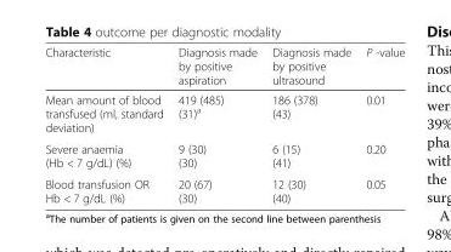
<table><thead><tr><td>Characteristic</td><td>Diagnosis made by positive aspiration</td><td>Diagnosis made by positive ultrasound</td><td>P -value</td></tr></thead><tbody><tr><td>Mean amount of blood transfused (ml, standard deviation)</td><td>419 (485) (31)<sup>a</sup></td><td>186 (378) (43)</td><td>0.01</td></tr><tr><td>Severe anaemia (Hb &lt; 7 g/dL) (%)</td><td>9 (30) (30)</td><td>6 (15) (41)</td><td>0.20</td></tr><tr><td>Blood transfusion OR Hb &lt; 7 g/dL (%)</td><td>20 (67) (30)</td><td>12 (30) (40)</td><td>0.05</td></tr></tbody></table>